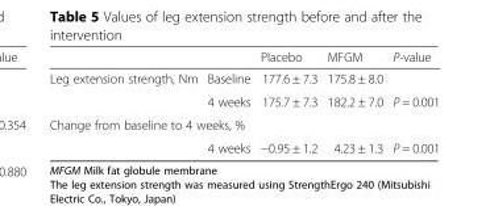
<table><thead><tr><td></td><td></td><td>Placebo</td><td>MFGM</td><td>P-value</td></tr></thead><tbody><tr><td rowspan="2">Leg extension strength, Nm</td><td>Baseline</td><td>177.6 ± 7.3</td><td>175.8 ± 8.0</td><td></td></tr><tr><td>4 weeks</td><td>175.7 ± 7.3</td><td>182.2 ± 7.0</td><td>P = 0.001</td></tr><tr><td colspan="5">Change from baseline to 4 weeks, %</td></tr><tr><td></td><td>4 weeks</td><td>−0.95 ± 1.2</td><td>4.23 ± 1.3</td><td>P = 0.001</td></tr></tbody></table>